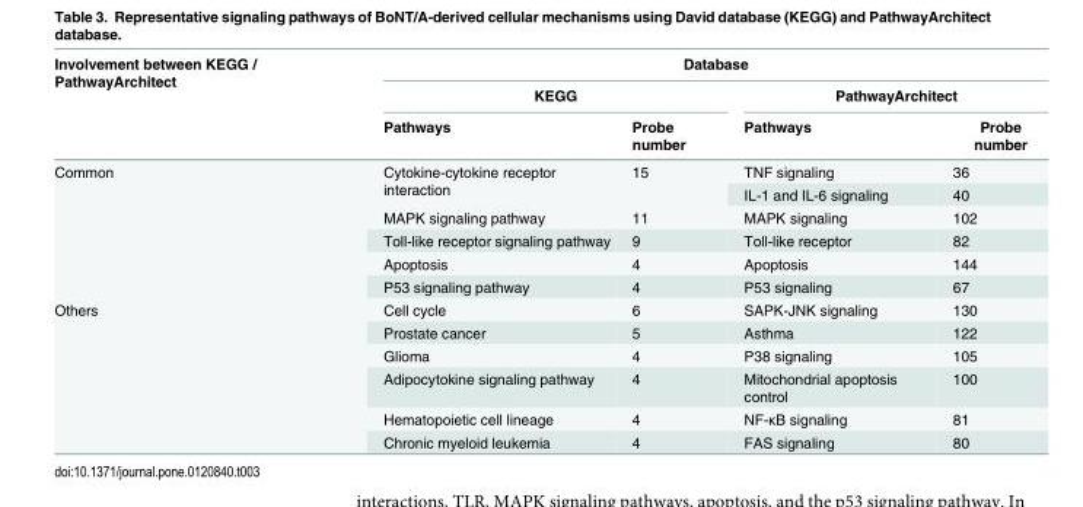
<table><thead><tr><td rowspan="3">Involvement between KEGG / PathwayArchitect</td><td colspan="4">Database</td></tr><tr><td colspan="2">KEGG</td><td colspan="2">PathwayArchitect</td></tr><tr><td>Pathways</td><td>Probe number</td><td>Pathways</td><td>Probe number</td></tr></thead><tbody><tr><td rowspan="6">Common</td><td rowspan="2">Cytokine-cytokine receptor interaction</td><td rowspan="2">15</td><td>TNF signaling</td><td>36</td></tr><tr><td>IL-1 and IL-6 signaling</td><td>40</td></tr><tr><td>MAPK signaling pathway</td><td>11</td><td>MAPK signaling</td><td>102</td></tr><tr><td>Toll-like receptor signaling pathway</td><td>9</td><td>Toll-like receptor</td><td>82</td></tr><tr><td>Apoptosis</td><td>4</td><td>Apoptosis</td><td>144</td></tr><tr><td>P53 signaling pathway</td><td>4</td><td>P53 signaling</td><td>67</td></tr><tr><td rowspan="6">Others</td><td>Cell cycle</td><td>6</td><td>SAPK-JNK signaling</td><td>130</td></tr><tr><td>Prostate cancer</td><td>5</td><td>Asthma</td><td>122</td></tr><tr><td>Glioma</td><td>4</td><td>P38 signaling</td><td>105</td></tr><tr><td>Adipocytokine signaling pathway</td><td>4</td><td>Mitochondrial apoptosis control</td><td>100</td></tr><tr><td>Hematopoietic cell lineage</td><td>4</td><td>NF-κB signaling</td><td>81</td></tr><tr><td>Chronic myeloid leukemia</td><td>4</td><td>FAS signaling</td><td>80</td></tr></tbody></table>